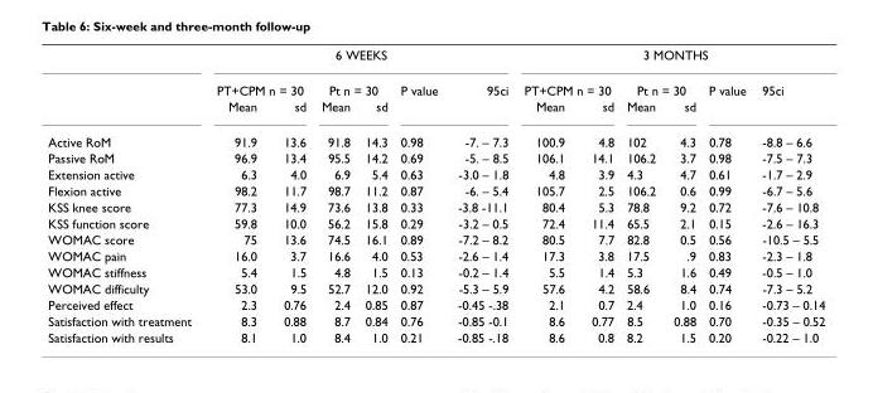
<table><thead><tr><td rowspan="3"></td><td colspan="6">6 WEEKS</td><td colspan="6">3 MONTHS</td></tr><tr><td colspan="2">PT+CPM n = 30</td><td colspan="2">Pt n = 30</td><td rowspan="2">P value</td><td rowspan="2">95ci</td><td colspan="2">PT+CPM n = 30</td><td colspan="2">Pt n = 30</td><td rowspan="2">P value</td><td rowspan="2">95ci</td></tr><tr><td>Mean</td><td>sd</td><td>Mean</td><td>sd</td><td>Mean</td><td>sd</td><td>Mean</td><td>sd</td></tr></thead><tbody><tr><td>Active RoM</td><td>91.9</td><td>13.6</td><td>91.8</td><td>14.3</td><td>0.98</td><td>-7. – 7.3</td><td>100.9</td><td>4.8</td><td>102</td><td>4.3</td><td>0.78</td><td>-8.8 – 6.6</td></tr><tr><td>Passive RoM</td><td>96.9</td><td>13.4</td><td>95.5</td><td>14.2</td><td>0.69</td><td>-5. – 8.5</td><td>106.1</td><td>14.1</td><td>106.2</td><td>3.7</td><td>0.98</td><td>-7.5 – 7.3</td></tr><tr><td>Extension active</td><td>6.3</td><td>4.0</td><td>6.9</td><td>5.4</td><td>0.63</td><td>-3.0 – 1.8</td><td>4.8</td><td>3.9</td><td>4.3</td><td>4.7</td><td>0.61</td><td>-1.7 – 2.9</td></tr><tr><td>Flexion active</td><td>98.2</td><td>11.7</td><td>98.7</td><td>11.2</td><td>0.87</td><td>-6. – 5.4</td><td>105.7</td><td>2.5</td><td>106.2</td><td>0.6</td><td>0.99</td><td>-6.7 – 5.6</td></tr><tr><td>KSS knee score</td><td>77.3</td><td>14.9</td><td>73.6</td><td>13.8</td><td>0.33</td><td>-3.8 -11.1</td><td>80.4</td><td>5.3</td><td>78.8</td><td>9.2</td><td>0.72</td><td>-7.6 – 10.8</td></tr><tr><td>KSS function score</td><td>59.8</td><td>10.0</td><td>56.2</td><td>15.8</td><td>0.29</td><td>-3.2 – 0.5</td><td>72.4</td><td>11.4</td><td>65.5</td><td>2.1</td><td>0.15</td><td>-2.6 – 16.3</td></tr><tr><td>WOMAC score</td><td>75</td><td>13.6</td><td>74.5</td><td>16.1</td><td>0.89</td><td>-7.2 – 8.2</td><td>80.5</td><td>7.7</td><td>82.8</td><td>0.5</td><td>0.56</td><td>-10.5 – 5.5</td></tr><tr><td>WOMAC pain</td><td>16.0</td><td>3.7</td><td>16.6</td><td>4.0</td><td>0.53</td><td>-2.6 – 1.4</td><td>17.3</td><td>3.8</td><td>17.5</td><td>.9</td><td>0.83</td><td>-2.3 – 1.8</td></tr><tr><td>WOMAC stiffness</td><td>5.4</td><td>1.5</td><td>4.8</td><td>1.5</td><td>0.13</td><td>-0.2 – 1.4</td><td>5.5</td><td>1.4</td><td>5.3</td><td>1.6</td><td>0.49</td><td>-0.5 – 1.0</td></tr><tr><td>WOMAC difficulty</td><td>53.0</td><td>9.5</td><td>52.7</td><td>12.0</td><td>0.92</td><td>-5.3 – 5.9</td><td>57.6</td><td>4.2</td><td>58.6</td><td>8.4</td><td>0.74</td><td>-7.3 – 5.2</td></tr><tr><td>Perceived effect</td><td>2.3</td><td>0.76</td><td>2.4</td><td>0.85</td><td>0.87</td><td>-0.45 -.38</td><td>2.1</td><td>0.7</td><td>2.4</td><td>1.0</td><td>0.16</td><td>-0.73 – 0.14</td></tr><tr><td>Satisfaction with treatment</td><td>8.3</td><td>0.88</td><td>8.7</td><td>0.84</td><td>0.76</td><td>-0.85 -0.1</td><td>8.6</td><td>0.77</td><td>8.5</td><td>0.88</td><td>0.70</td><td>-0.35 – 0.52</td></tr><tr><td>Satisfaction with results</td><td>8.1</td><td>1.0</td><td>8.4</td><td>1.0</td><td>0.21</td><td>-0.85 -.18</td><td>8.6</td><td>0.8</td><td>8.2</td><td>1.5</td><td>0.20</td><td>-0.22 – 1.0</td></tr></tbody></table>